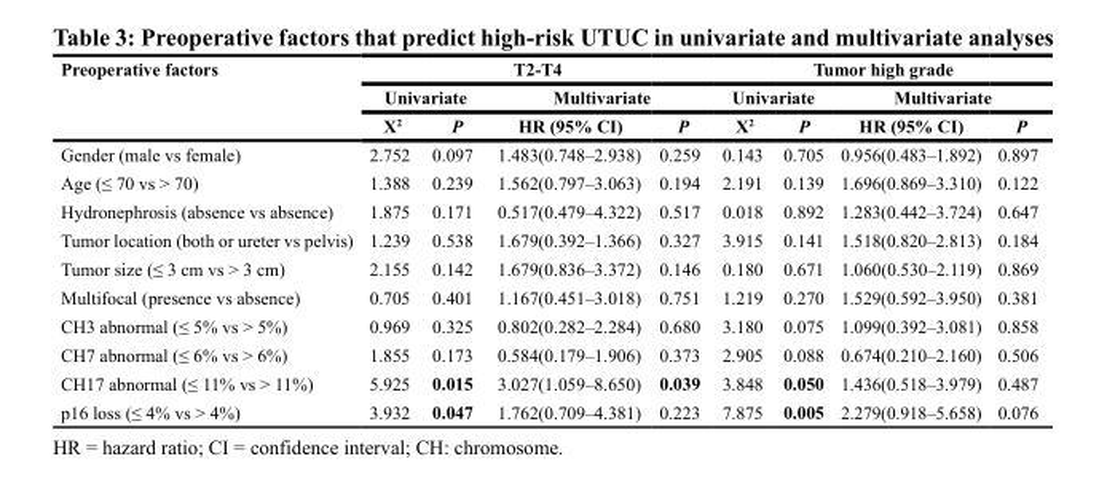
<table><thead><tr><td rowspan="3">Preoperative factors</td><td colspan="4">T2-T4</td><td colspan="4">Tumor high grade</td></tr><tr><td colspan="2">Univariate</td><td colspan="2">Multivariate</td><td colspan="2">Univariate</td><td colspan="2">Multivariate</td></tr><tr><td>X<sup>2</sup></td><td>P</td><td>HR (95% CI)</td><td>P</td><td>X<sup>2</sup></td><td>P</td><td>HR (95% CI)</td><td>P</td></tr></thead><tbody><tr><td>Gender (male vs female)</td><td>2.752</td><td>0.097</td><td>1.483(0.748–2.938)</td><td>0.259</td><td>0.143</td><td>0.705</td><td>0.956(0.483–1.892)</td><td>0.897</td></tr><tr><td>Age (≤ 70 vs &gt; 70)</td><td>1.388</td><td>0.239</td><td>1.562(0.797–3.063)</td><td>0.194</td><td>2.191</td><td>0.139</td><td>1.696(0.869–3.310)</td><td>0.122</td></tr><tr><td>Hydronephrosis (absence vs absence)</td><td>1.875</td><td>0.171</td><td>0.517(0.479–4.322)</td><td>0.517</td><td>0.018</td><td>0.892</td><td>1.283(0.442–3.724)</td><td>0.647</td></tr><tr><td>Tumor location (both or ureter vs pelvis)</td><td>1.239</td><td>0.538</td><td>1.679(0.392–1.366)</td><td>0.327</td><td>3.915</td><td>0.141</td><td>1.518(0.820–2.813)</td><td>0.184</td></tr><tr><td>Tumor size (≤ 3 cm vs &gt; 3 cm)</td><td>2.155</td><td>0.142</td><td>1.679(0.836–3.372)</td><td>0.146</td><td>0.180</td><td>0.671</td><td>1.060(0.530–2.119)</td><td>0.869</td></tr><tr><td>Multifocal (presence vs absence)</td><td>0.705</td><td>0.401</td><td>1.167(0.451–3.018)</td><td>0.751</td><td>1.219</td><td>0.270</td><td>1.529(0.592–3.950)</td><td>0.381</td></tr><tr><td>CH3 abnormal (≤ 5% vs &gt; 5%)</td><td>0.969</td><td>0.325</td><td>0.802(0.282–2.284)</td><td>0.680</td><td>3.180</td><td>0.075</td><td>1.099(0.392–3.081)</td><td>0.858</td></tr><tr><td>CH7 abnormal (≤ 6% vs &gt; 6%)</td><td>1.855</td><td>0.173</td><td>0.584(0.179–1.906)</td><td>0.373</td><td>2.905</td><td>0.088</td><td>0.674(0.210–2.160)</td><td>0.506</td></tr><tr><td>CH17 abnormal (≤ 11% vs &gt; 11%)</td><td>5.925</td><td>0.015</td><td>3.027(1.059–8.650)</td><td>0.039</td><td>3.848</td><td>0.050</td><td>1.436(0.518–3.979)</td><td>0.487</td></tr><tr><td>p16 loss (≤ 4% vs &gt; 4%)</td><td>3.932</td><td>0.047</td><td>1.762(0.709–4.381)</td><td>0.223</td><td>7.875</td><td>0.005</td><td>2.279(0.918–5.658)</td><td>0.076</td></tr></tbody></table>